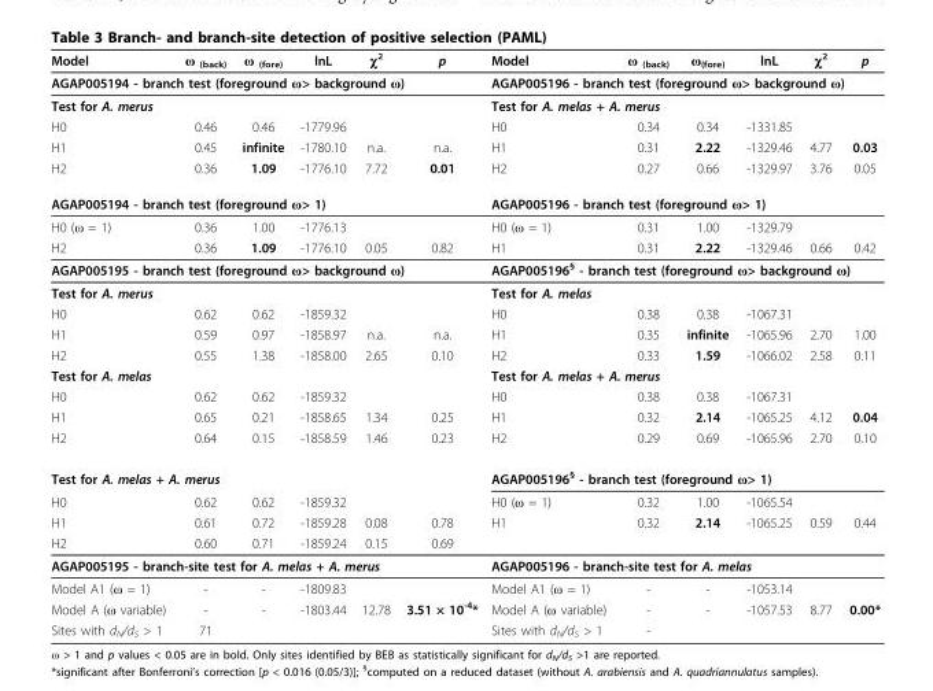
<table><thead><tr><td>Model</td><td>ω <sub>(back)</sub></td><td>ω <sub>(fore)</sub></td><td>lnL</td><td>χ<sup>2</sup></td><td>p</td><td>Model</td><td>ω <sub>(back)</sub></td><td>ω<sub>(fore)</sub></td><td>lnL</td><td>χ<sup>2</sup></td><td>p</td></tr></thead><tbody><tr><td colspan="6">AGAP005194 - branch test (foreground ω&gt; background ω)</td><td colspan="6">AGAP005196 - branch test (foreground ω&gt; background ω)</td></tr><tr><td colspan="6">Test for A. merus</td><td colspan="6">Test for A. melas + A. merus</td></tr><tr><td>H0</td><td>0.46</td><td>0.46</td><td>-1779.96</td><td></td><td></td><td>H0</td><td>0.34</td><td>0.34</td><td>-1331.85</td><td></td><td></td></tr><tr><td>H1</td><td>0.45</td><td>infinite</td><td>-1780.10</td><td>n.a.</td><td>n.a.</td><td>H1</td><td>0.31</td><td>2.22</td><td>-1329.46</td><td>4.77</td><td>0.03</td></tr><tr><td>H2</td><td>0.36</td><td>1.09</td><td>-1776.10</td><td>7.72</td><td>0.01</td><td>H2</td><td>0.27</td><td>0.66</td><td>-1329.97</td><td>3.76</td><td>0.05</td></tr><tr><td colspan="4">AGAP005194 - branch test (foreground ω&gt; 1)</td><td></td><td></td><td colspan="4">AGAP005196 - branch test (foreground ω&gt; 1)</td><td></td><td></td></tr><tr><td>H0 (ω = 1)</td><td>0.36</td><td>1.00</td><td>-1776.13</td><td></td><td></td><td>H0 (ω = 1)</td><td>0.31</td><td>1.00</td><td>-1329.79</td><td></td><td></td></tr><tr><td>H2</td><td>0.36</td><td>1.09</td><td>-1776.10</td><td>0.05</td><td>0.82</td><td>H1</td><td>0.31</td><td>2.22</td><td>-1329.46</td><td>0.66</td><td>0.42</td></tr><tr><td colspan="6">AGAP005195 - branch test (foreground ω&gt; background ω)</td><td colspan="6">AGAP005196<sup>§</sup> - branch test (foreground ω&gt; background ω)</td></tr><tr><td>Test for A. merus</td><td></td><td></td><td></td><td></td><td></td><td>Test for A. melas</td><td></td><td></td><td></td><td></td><td></td></tr><tr><td>H0</td><td>0.62</td><td>0.62</td><td>-1859.32</td><td></td><td></td><td>H0</td><td>0.38</td><td>0.38</td><td>-1067.31</td><td></td><td></td></tr><tr><td>H1</td><td>0.59</td><td>0.97</td><td>-1858.97</td><td>n.a.</td><td>n.a.</td><td>H1</td><td>0.35</td><td>infinite</td><td>-1065.96</td><td>2.70</td><td>1.00</td></tr><tr><td>H2</td><td>0.55</td><td>1.38</td><td>-1858.00</td><td>2.65</td><td>0.10</td><td>H2</td><td>0.33</td><td>1.59</td><td>-1066.02</td><td>2.58</td><td>0.11</td></tr><tr><td>Test for A. melas</td><td></td><td></td><td></td><td></td><td></td><td colspan="3">Test for A. melas + A. merus</td><td></td><td></td><td></td></tr><tr><td>H0</td><td>0.62</td><td>0.62</td><td>-1859.32</td><td></td><td></td><td>H0</td><td>0.38</td><td>0.38</td><td>-1067.31</td><td></td><td></td></tr><tr><td>H1</td><td>0.65</td><td>0.21</td><td>-1858.65</td><td>1.34</td><td>0.25</td><td>H1</td><td>0.32</td><td>2.14</td><td>-1065.25</td><td>4.12</td><td>0.04</td></tr><tr><td>H2</td><td>0.64</td><td>0.15</td><td>-1858.59</td><td>1.46</td><td>0.23</td><td>H2</td><td>0.29</td><td>0.69</td><td>-1065.96</td><td>2.70</td><td>0.10</td></tr><tr><td colspan="3">Test for A. melas + A. merus</td><td></td><td></td><td></td><td colspan="5">AGAP005196<sup>§</sup> - branch test (foreground ω&gt; 1)</td><td></td></tr><tr><td>H0</td><td>0.62</td><td>0.62</td><td>-1859.32</td><td></td><td></td><td>H0 (ω = 1)</td><td>0.32</td><td>1.00</td><td>-1065.54</td><td></td><td></td></tr><tr><td>H1</td><td>0.61</td><td>0.72</td><td>-1859.28</td><td>0.08</td><td>0.78</td><td>H1</td><td>0.32</td><td>2.14</td><td>-1065.25</td><td>0.59</td><td>0.44</td></tr><tr><td>H2</td><td>0.60</td><td>0.71</td><td>-1859.24</td><td>0.15</td><td>0.69</td><td></td><td></td><td></td><td></td><td></td><td></td></tr><tr><td colspan="6">AGAP005195 - branch-site test for A. melas + A. merus</td><td colspan="6">AGAP005196 - branch-site test for A. melas</td></tr><tr><td>Model A1 (ω = 1)</td><td>-</td><td>-</td><td>-1809.83</td><td></td><td></td><td>Model A1 (ω = 1)</td><td>-</td><td>-</td><td>-1053.14</td><td></td><td></td></tr><tr><td>Model A (ω variable)</td><td>-</td><td>-</td><td>-1803.44</td><td>12.78</td><td>3.51 × 10<sup>-4</sup>*</td><td>Model A (ω variable)</td><td>-</td><td>-</td><td>-1057.53</td><td>8.77</td><td>0.00*</td></tr><tr><td>Sites with d<sub>N</sub>/d<sub>S</sub> &gt; 1</td><td>71</td><td></td><td></td><td></td><td></td><td>Sites with d<sub>N</sub>/d<sub>S</sub> &gt; 1</td><td>-</td><td></td><td></td><td></td><td></td></tr></tbody></table>